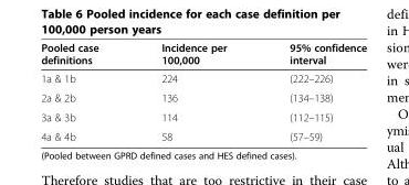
<table><thead><tr><td>Pooled case definitions</td><td>Incidence per 100,000</td><td>95% confidence interval</td></tr></thead><tbody><tr><td>1a &amp; 1b</td><td>224</td><td>(222–226)</td></tr><tr><td>2a &amp; 2b</td><td>136</td><td>(134–138)</td></tr><tr><td>3a &amp; 3b</td><td>114</td><td>(112–115)</td></tr><tr><td>4a &amp; 4b</td><td>58</td><td>(57–59)</td></tr></tbody></table>